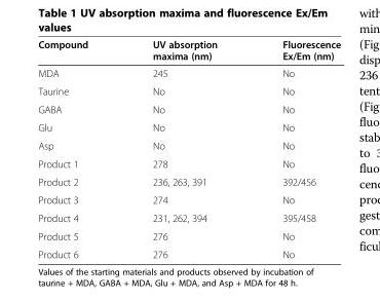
<table><thead><tr><td>Compound</td><td>UV absorption maxima (nm)</td><td>Fluorescence Ex/Em (nm)</td></tr></thead><tbody><tr><td>MDA</td><td>245</td><td>No</td></tr><tr><td>Taurine</td><td>No</td><td>No</td></tr><tr><td>GABA</td><td>No</td><td>No</td></tr><tr><td>Glu</td><td>No</td><td>No</td></tr><tr><td>Asp</td><td>No</td><td>No</td></tr><tr><td>Product 1</td><td>278</td><td>No</td></tr><tr><td>Product 2</td><td>236, 263, 391</td><td>392/456</td></tr><tr><td>Product 3</td><td>274</td><td>No</td></tr><tr><td>Product 4</td><td>231, 262, 394</td><td>395/458</td></tr><tr><td>Product 5</td><td>276</td><td>No</td></tr><tr><td>Product 6</td><td>276</td><td>No</td></tr></tbody></table>